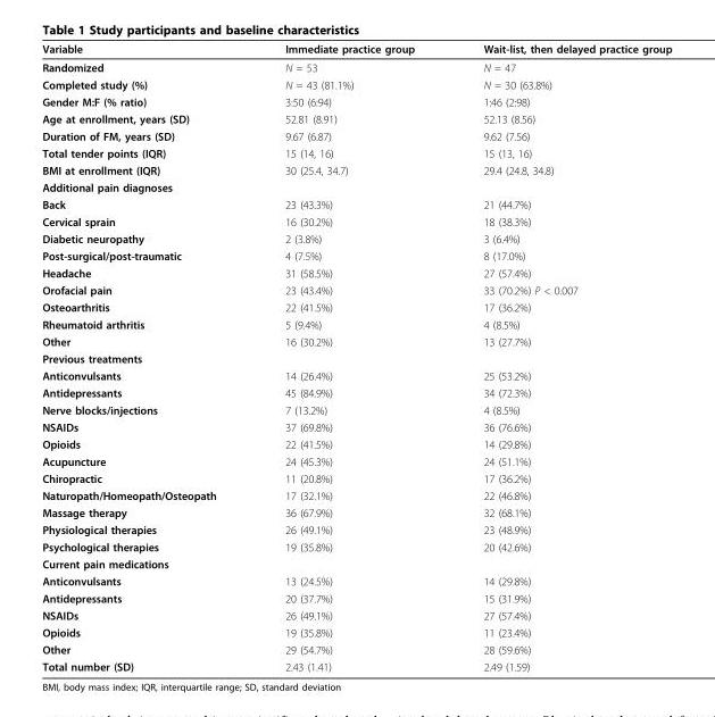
<table><thead><tr><td>Variable</td><td>Immediate practice group</td><td>Wait-list, then delayed practice group</td></tr></thead><tbody><tr><td>Randomized</td><td>N = 53</td><td>N = 47</td></tr><tr><td>Completed study (%)</td><td>N = 43 (81.1%)</td><td>N = 30 (63.8%)</td></tr><tr><td>Gender M:F (% ratio)</td><td>3:50 (6:94)</td><td>1:46 (2:98)</td></tr><tr><td>Age at enrollment, years (SD)</td><td>52.81 (8.91)</td><td>52.13 (8.56)</td></tr><tr><td>Duration of FM, years (SD)</td><td>9.67 (6.87)</td><td>9.62 (7.56)</td></tr><tr><td>Total tender points (IQR)</td><td>15 (14, 16)</td><td>15 (13, 16)</td></tr><tr><td>BMI at enrollment (IQR)</td><td>30 (25.4, 34.7)</td><td>29.4 (24.8, 34.8)</td></tr><tr><td colspan="3">Additional pain diagnoses</td></tr><tr><td>Back</td><td>23 (43.3%)</td><td>21 (44.7%)</td></tr><tr><td>Cervical sprain</td><td>16 (30.2%)</td><td>18 (38.3%)</td></tr><tr><td>Diabetic neuropathy</td><td>2 (3.8%)</td><td>3 (6.4%)</td></tr><tr><td>Post-surgical/post-traumatic</td><td>4 (7.5%)</td><td>8 (17.0%)</td></tr><tr><td>Headache</td><td>31 (58.5%)</td><td>27 (57.4%)</td></tr><tr><td>Orofacial pain</td><td>23 (43.4%)</td><td>33 (70.2%) P &lt; 0.007</td></tr><tr><td>Osteoarthritis</td><td>22 (41.5%)</td><td>17 (36.2%)</td></tr><tr><td>Rheumatoid arthritis</td><td>5 (9.4%)</td><td>4 (8.5%)</td></tr><tr><td>Other</td><td>16 (30.2%)</td><td>13 (27.7%)</td></tr><tr><td colspan="3">Previous treatments</td></tr><tr><td>Anticonvulsants</td><td>14 (26.4%)</td><td>25 (53.2%)</td></tr><tr><td>Antidepressants</td><td>45 (84.9%)</td><td>34 (72.3%)</td></tr><tr><td>Nerve blocks/injections</td><td>7 (13.2%)</td><td>4 (8.5%)</td></tr><tr><td>NSAIDs</td><td>37 (69.8%)</td><td>36 (76.6%)</td></tr><tr><td>Opioids</td><td>22 (41.5%)</td><td>14 (29.8%)</td></tr><tr><td>Acupuncture</td><td>24 (45.3%)</td><td>24 (51.1%)</td></tr><tr><td>Chiropractic</td><td>11 (20.8%)</td><td>17 (36.2%)</td></tr><tr><td>Naturopath/Homeopath/Osteopath</td><td>17 (32.1%)</td><td>22 (46.8%)</td></tr><tr><td>Massage therapy</td><td>36 (67.9%)</td><td>32 (68.1%)</td></tr><tr><td>Physiological therapies</td><td>26 (49.1%)</td><td>23 (48.9%)</td></tr><tr><td>Psychological therapies</td><td>19 (35.8%)</td><td>20 (42.6%)</td></tr><tr><td colspan="3">Current pain medications</td></tr><tr><td>Anticonvulsants</td><td>13 (24.5%)</td><td>14 (29.8%)</td></tr><tr><td>Antidepressants</td><td>20 (37.7%)</td><td>15 (31.9%)</td></tr><tr><td>NSAIDs</td><td>26 (49.1%)</td><td>27 (57.4%)</td></tr><tr><td>Opioids</td><td>19 (35.8%)</td><td>11 (23.4%)</td></tr><tr><td>Other</td><td>29 (54.7%)</td><td>28 (59.6%)</td></tr><tr><td>Total number (SD)</td><td>2.43 (1.41)</td><td>2.49 (1.59)</td></tr></tbody></table>